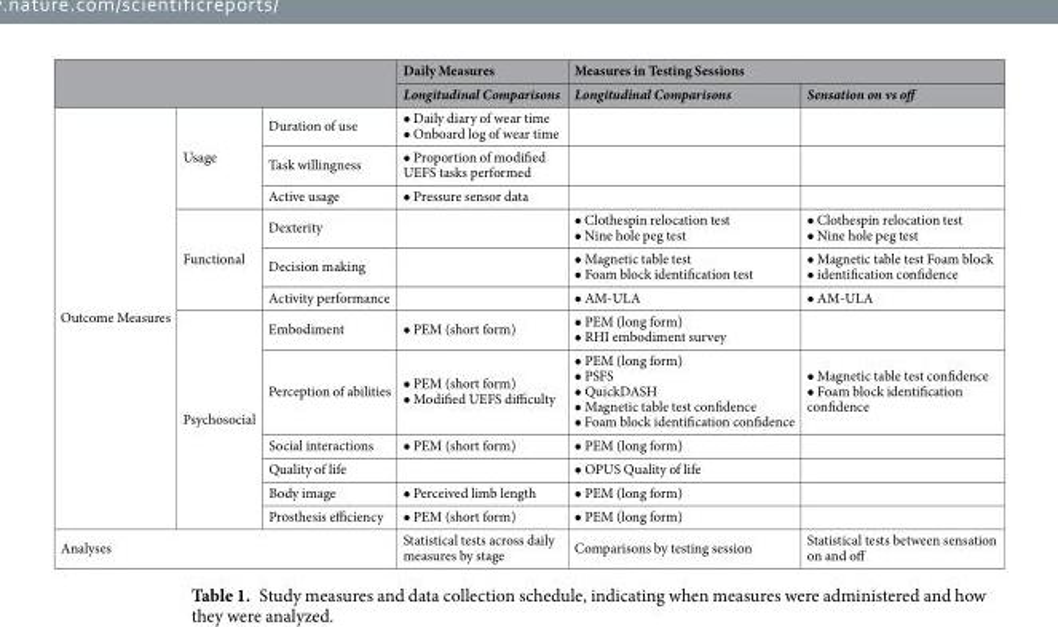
<table><thead><tr><td rowspan="2"></td><td rowspan="2"></td><td rowspan="2"></td><td rowspan="2">Daily Measures Longitudinal Comparisons</td><td colspan="2">Measures in Testing Sessions</td></tr><tr><td>Longitudinal Comparisons</td><td>Sensation on vs off</td></tr></thead><tbody><tr><td rowspan="12">Outcome Measures</td><td rowspan="3">Usage</td><td>Duration of use</td><td>• Daily diary of wear time • Onboard log of wear time</td><td></td><td></td></tr><tr><td>Task willingness</td><td>• Proportion of modified UEFS tasks performed</td><td></td><td></td></tr><tr><td>Active usage</td><td>• Pressure sensor data</td><td></td><td></td></tr><tr><td rowspan="3">Functional</td><td>Dexterity</td><td></td><td>• Clothespin relocation test • Nine hole peg test</td><td>• Clothespin relocation test • Nine hole peg test</td></tr><tr><td>Decision making</td><td></td><td>• Magnetic table test • Foam block identification test</td><td>• Magnetic table test Foam block • identification confidence</td></tr><tr><td>Activity performance</td><td></td><td>• AM-ULA</td><td>• AM-ULA</td></tr><tr><td rowspan="6">Psychosocial</td><td>Embodiment</td><td>• PEM (short form)</td><td>• PEM (long form) • RHI embodiment survey</td><td></td></tr><tr><td>Perception of abilities</td><td>• PEM (short form) • Modified UEFS difficulty</td><td>• PEM (long form) • PSFS • QuickDASH • Magnetic table test confidence • Foam block identification confidence</td><td>• Magnetic table test confidence • Foam block identification confidence</td></tr><tr><td>Social interactions</td><td>• PEM (short form)</td><td>• PEM (long form)</td><td></td></tr><tr><td>Quality of life</td><td></td><td>• OPUS Quality of life</td><td></td></tr><tr><td>Body image</td><td>• Perceived limb length</td><td>• PEM (long form)</td><td></td></tr><tr><td>Prosthesis efficiency</td><td>• PEM (short form)</td><td>• PEM (long form)</td><td></td></tr><tr><td colspan="3">Analyses</td><td>Statistical tests across daily measures by stage</td><td>Comparisons by testing session</td><td>Statistical tests between sensation on and off</td></tr></tbody></table>